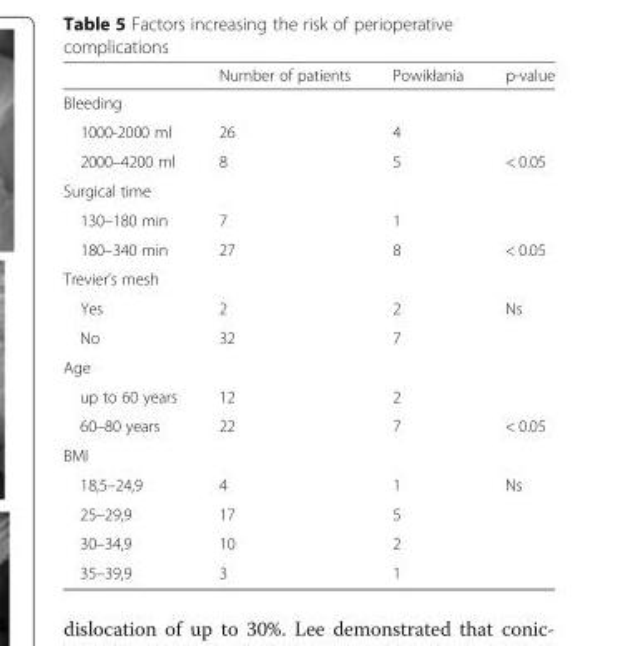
<table><thead><tr><td></td><td>Number of patients</td><td>Powikłania</td><td>p-value</td></tr></thead><tbody><tr><td colspan="4">Bleeding</td></tr><tr><td>1000-2000 ml</td><td>26</td><td>4</td><td></td></tr><tr><td>2000–4200 ml</td><td>8</td><td>5</td><td>&lt; 0.05</td></tr><tr><td colspan="4">Surgical time</td></tr><tr><td>130–180 min</td><td>7</td><td>1</td><td></td></tr><tr><td>180–340 min</td><td>27</td><td>8</td><td>&lt; 0.05</td></tr><tr><td colspan="4">Trevier’s mesh</td></tr><tr><td>Yes</td><td>2</td><td>2</td><td>Ns</td></tr><tr><td>No</td><td>32</td><td>7</td><td></td></tr><tr><td colspan="4">Age</td></tr><tr><td>up to 60 years</td><td>12</td><td>2</td><td></td></tr><tr><td>60–80 years</td><td>22</td><td>7</td><td>&lt; 0.05</td></tr><tr><td colspan="4">BMI</td></tr><tr><td>18,5–24,9</td><td>4</td><td>1</td><td>Ns</td></tr><tr><td>25–29,9</td><td>17</td><td>5</td><td></td></tr><tr><td>30–34,9</td><td>10</td><td>2</td><td></td></tr><tr><td>35–39,9</td><td>3</td><td>1</td><td></td></tr></tbody></table>